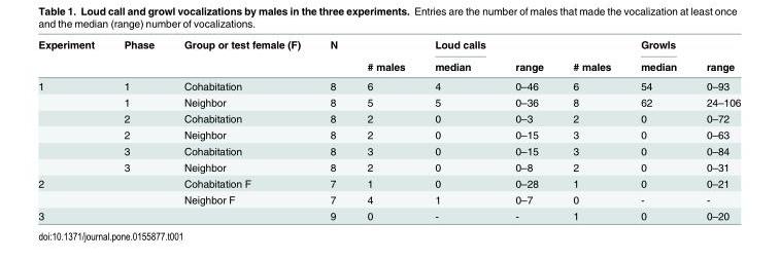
<table><thead><tr><td rowspan="2">Experiment</td><td rowspan="2">Phase</td><td rowspan="2">Group or test female (F)</td><td rowspan="2">N</td><td rowspan="2"># males</td><td rowspan="2">Loud calls median</td><td rowspan="2">range</td><td rowspan="2"># males</td><td rowspan="2">Growls median</td><td rowspan="2">range</td></tr><tr></tr></thead><tbody><tr><td rowspan="6">1</td><td>1</td><td>Cohabitation</td><td>8</td><td>6</td><td>4</td><td>0–46</td><td>6</td><td>54</td><td>0–93</td></tr><tr><td>1</td><td>Neighbor</td><td>8</td><td>5</td><td>5</td><td>0–36</td><td>8</td><td>62</td><td>24–106</td></tr><tr><td>2</td><td>Cohabitation</td><td>8</td><td>2</td><td>0</td><td>0–3</td><td>2</td><td>0</td><td>0–72</td></tr><tr><td>2</td><td>Neighbor</td><td>8</td><td>2</td><td>0</td><td>0–15</td><td>3</td><td>0</td><td>0–63</td></tr><tr><td>3</td><td>Cohabitation</td><td>8</td><td>3</td><td>0</td><td>0–15</td><td>3</td><td>0</td><td>0–84</td></tr><tr><td>3</td><td>Neighbor</td><td>8</td><td>2</td><td>0</td><td>0–8</td><td>2</td><td>0</td><td>0–31</td></tr><tr><td rowspan="2">2</td><td></td><td>Cohabitation F</td><td>7</td><td>1</td><td>0</td><td>0–28</td><td>1</td><td>0</td><td>0–21</td></tr><tr><td></td><td>Neighbor F</td><td>7</td><td>4</td><td>1</td><td>0–7</td><td>0</td><td>-</td><td>-</td></tr><tr><td>3</td><td></td><td></td><td>9</td><td>0</td><td>-</td><td>-</td><td>1</td><td>0</td><td>0–20</td></tr></tbody></table>